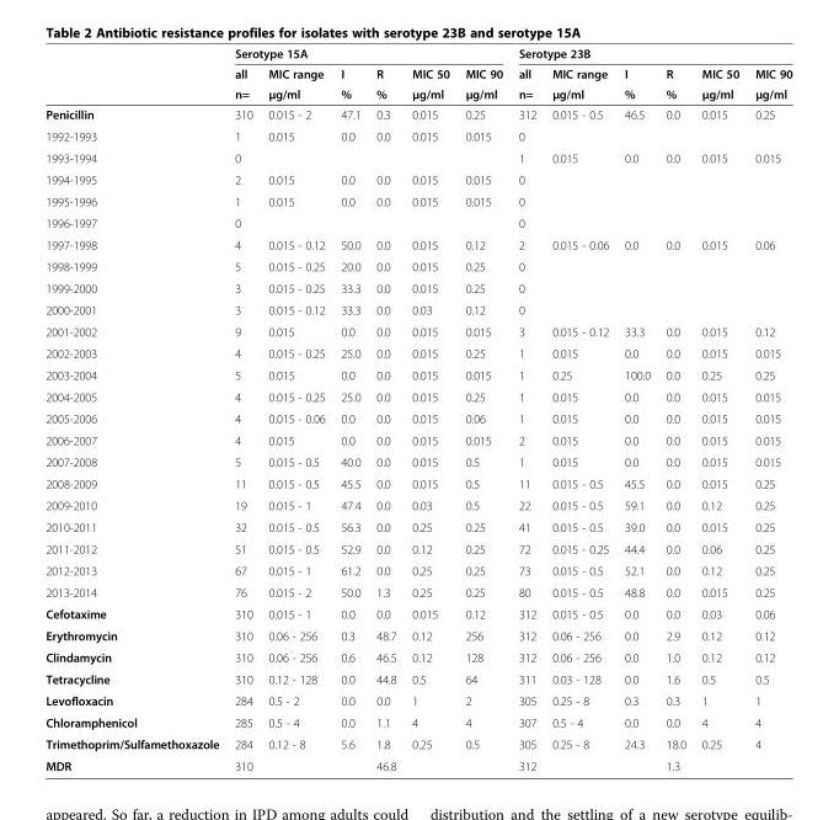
<table><thead><tr><td rowspan="3"></td><td colspan="6">Serotype 15A</td><td colspan="6">Serotype 23B</td></tr><tr><td rowspan="2">all n=</td><td rowspan="2">MIC range μg/ml</td><td rowspan="2">I %</td><td rowspan="2">R %</td><td rowspan="2">MIC 50 μg/ml</td><td rowspan="2">MIC 90 μg/ml</td><td rowspan="2">all n=</td><td rowspan="2">MIC range μg/ml</td><td rowspan="2">I %</td><td rowspan="2">R %</td><td rowspan="2">MIC 50 μg/ml</td><td rowspan="2">MIC 90 μg/ml</td></tr><tr></tr></thead><tbody><tr><td>Penicillin</td><td>310</td><td>0.015 - 2</td><td>47.1</td><td>0.3</td><td>0.015</td><td>0.25</td><td>312</td><td>0.015 - 0.5</td><td>46.5</td><td>0.0</td><td>0.015</td><td>0.25</td></tr><tr><td>1992-1993</td><td>1</td><td>0.015</td><td>0.0</td><td>0.0</td><td>0.015</td><td>0.015</td><td>0</td><td></td><td></td><td></td><td></td><td></td></tr><tr><td>1993-1994</td><td>0</td><td></td><td></td><td></td><td></td><td></td><td>1</td><td>0.015</td><td>0.0</td><td>0.0</td><td>0.015</td><td>0.015</td></tr><tr><td>1994-1995</td><td>2</td><td>0.015</td><td>0.0</td><td>0.0</td><td>0.015</td><td>0.015</td><td>0</td><td></td><td></td><td></td><td></td><td></td></tr><tr><td>1995-1996</td><td>1</td><td>0.015</td><td>0.0</td><td>0.0</td><td>0.015</td><td>0.015</td><td>0</td><td></td><td></td><td></td><td></td><td></td></tr><tr><td>1996-1997</td><td>0</td><td></td><td></td><td></td><td></td><td></td><td>0</td><td></td><td></td><td></td><td></td><td></td></tr><tr><td>1997-1998</td><td>4</td><td>0.015 - 0.12</td><td>50.0</td><td>0.0</td><td>0.015</td><td>0.12</td><td>2</td><td>0.015 - 0.06</td><td>0.0</td><td>0.0</td><td>0.015</td><td>0.06</td></tr><tr><td>1998-1999</td><td>5</td><td>0.015 - 0.25</td><td>20.0</td><td>0.0</td><td>0.015</td><td>0.25</td><td>0</td><td></td><td></td><td></td><td></td><td></td></tr><tr><td>1999-2000</td><td>3</td><td>0.015 - 0.25</td><td>33.3</td><td>0.0</td><td>0.015</td><td>0.25</td><td>0</td><td></td><td></td><td></td><td></td><td></td></tr><tr><td>2000-2001</td><td>3</td><td>0.015 - 0.12</td><td>33.3</td><td>0.0</td><td>0.03</td><td>0.12</td><td>0</td><td></td><td></td><td></td><td></td><td></td></tr><tr><td>2001-2002</td><td>9</td><td>0.015</td><td>0.0</td><td>0.0</td><td>0.015</td><td>0.015</td><td>3</td><td>0.015 - 0.12</td><td>33.3</td><td>0.0</td><td>0.015</td><td>0.12</td></tr><tr><td>2002-2003</td><td>4</td><td>0.015 - 0.25</td><td>25.0</td><td>0.0</td><td>0.015</td><td>0.25</td><td>1</td><td>0.015</td><td>0.0</td><td>0.0</td><td>0.015</td><td>0.015</td></tr><tr><td>2003-2004</td><td>5</td><td>0.015</td><td>0.0</td><td>0.0</td><td>0.015</td><td>0.015</td><td>1</td><td>0.25</td><td>100.0</td><td>0.0</td><td>0.25</td><td>0.25</td></tr><tr><td>2004-2005</td><td>4</td><td>0.015 - 0.25</td><td>25.0</td><td>0.0</td><td>0.015</td><td>0.25</td><td>1</td><td>0.015</td><td>0.0</td><td>0.0</td><td>0.015</td><td>0.015</td></tr><tr><td>2005-2006</td><td>4</td><td>0.015 - 0.06</td><td>0.0</td><td>0.0</td><td>0.015</td><td>0.06</td><td>1</td><td>0.015</td><td>0.0</td><td>0.0</td><td>0.015</td><td>0.015</td></tr><tr><td>2006-2007</td><td>4</td><td>0.015</td><td>0.0</td><td>0.0</td><td>0.015</td><td>0.015</td><td>2</td><td>0.015</td><td>0.0</td><td>0.0</td><td>0.015</td><td>0.015</td></tr><tr><td>2007-2008</td><td>5</td><td>0.015 - 0.5</td><td>40.0</td><td>0.0</td><td>0.015</td><td>0.5</td><td>1</td><td>0.015</td><td>0.0</td><td>0.0</td><td>0.015</td><td>0.015</td></tr><tr><td>2008-2009</td><td>11</td><td>0.015 - 0.5</td><td>45.5</td><td>0.0</td><td>0.015</td><td>0.5</td><td>11</td><td>0.015 - 0.5</td><td>45.5</td><td>0.0</td><td>0.015</td><td>0.25</td></tr><tr><td>2009-2010</td><td>19</td><td>0.015 - 1</td><td>47.4</td><td>0.0</td><td>0.03</td><td>0.5</td><td>22</td><td>0.015 - 0.5</td><td>59.1</td><td>0.0</td><td>0.12</td><td>0.25</td></tr><tr><td>2010-2011</td><td>32</td><td>0.015 - 0.5</td><td>56.3</td><td>0.0</td><td>0.25</td><td>0.25</td><td>41</td><td>0.015 - 0.5</td><td>39.0</td><td>0.0</td><td>0.015</td><td>0.25</td></tr><tr><td>2011-2012</td><td>51</td><td>0.015 - 0.5</td><td>52.9</td><td>0.0</td><td>0.12</td><td>0.25</td><td>72</td><td>0.015 - 0.25</td><td>44.4</td><td>0.0</td><td>0.06</td><td>0.25</td></tr><tr><td>2012-2013</td><td>67</td><td>0.015 - 1</td><td>61.2</td><td>0.0</td><td>0.25</td><td>0.25</td><td>73</td><td>0.015 - 0.5</td><td>52.1</td><td>0.0</td><td>0.12</td><td>0.25</td></tr><tr><td>2013-2014</td><td>76</td><td>0.015 - 2</td><td>50.0</td><td>1.3</td><td>0.25</td><td>0.25</td><td>80</td><td>0.015 - 0.5</td><td>48.8</td><td>0.0</td><td>0.015</td><td>0.25</td></tr><tr><td>Cefotaxime</td><td>310</td><td>0.015 - 1</td><td>0.0</td><td>0.0</td><td>0.015</td><td>0.12</td><td>312</td><td>0.015 - 0.5</td><td>0.0</td><td>0.0</td><td>0.03</td><td>0.06</td></tr><tr><td>Erythromycin</td><td>310</td><td>0.06 - 256</td><td>0.3</td><td>48.7</td><td>0.12</td><td>256</td><td>312</td><td>0.06 - 256</td><td>0.0</td><td>2.9</td><td>0.12</td><td>0.12</td></tr><tr><td>Clindamycin</td><td>310</td><td>0.06 - 256</td><td>0.6</td><td>46.5</td><td>0.12</td><td>128</td><td>312</td><td>0.06 - 256</td><td>0.0</td><td>1.0</td><td>0.12</td><td>0.12</td></tr><tr><td>Tetracycline</td><td>310</td><td>0.12 - 128</td><td>0.0</td><td>44.8</td><td>0.5</td><td>64</td><td>311</td><td>0.03 - 128</td><td>0.0</td><td>1.6</td><td>0.5</td><td>0.5</td></tr><tr><td>Levofloxacin</td><td>284</td><td>0.5 - 2</td><td>0.0</td><td>0.0</td><td>1</td><td>2</td><td>305</td><td>0.25 - 8</td><td>0.3</td><td>0.3</td><td>1</td><td>1</td></tr><tr><td>Chloramphenicol</td><td>285</td><td>0.5 - 4</td><td>0.0</td><td>1.1</td><td>4</td><td>4</td><td>307</td><td>0.5 - 4</td><td>0.0</td><td>0.0</td><td>4</td><td>4</td></tr><tr><td>Trimethoprim/Sulfamethoxazole</td><td>284</td><td>0.12 - 8</td><td>5.6</td><td>1.8</td><td>0.25</td><td>0.5</td><td>305</td><td>0.25 - 8</td><td>24.3</td><td>18.0</td><td>0.25</td><td>4</td></tr><tr><td>MDR</td><td>310</td><td></td><td></td><td>46.8</td><td></td><td></td><td>312</td><td></td><td></td><td>1.3</td><td></td><td></td></tr></tbody></table>